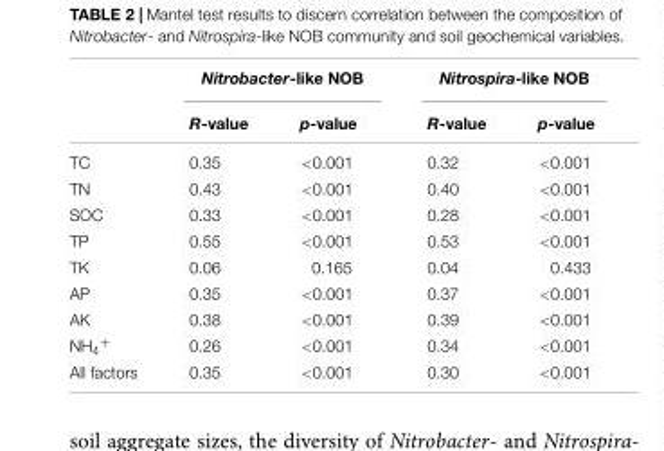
<table><thead><tr><td rowspan="2"></td><td colspan="2">Nitrobacter-like NOB</td><td colspan="2">Nitrospira-like NOB</td></tr><tr><td>R-value</td><td>p-value</td><td>R-value</td><td>p-value</td></tr></thead><tbody><tr><td>TC</td><td>0.35</td><td>&lt;0.001</td><td>0.32</td><td>&lt;0.001</td></tr><tr><td>TN</td><td>0.43</td><td>&lt;0.001</td><td>0.40</td><td>&lt;0.001</td></tr><tr><td>SOC</td><td>0.33</td><td>&lt;0.001</td><td>0.28</td><td>&lt;0.001</td></tr><tr><td>TP</td><td>0.55</td><td>&lt;0.001</td><td>0.53</td><td>&lt;0.001</td></tr><tr><td>TK</td><td>0.06</td><td>0.165</td><td>0.04</td><td>0.433</td></tr><tr><td>AP</td><td>0.35</td><td>&lt;0.001</td><td>0.37</td><td>&lt;0.001</td></tr><tr><td>AK</td><td>0.38</td><td>&lt;0.001</td><td>0.39</td><td>&lt;0.001</td></tr><tr><td>NH<sub>4</sub><sup>+</sup></td><td>0.26</td><td>&lt;0.001</td><td>0.34</td><td>&lt;0.001</td></tr><tr><td>All factors</td><td>0.35</td><td>&lt;0.001</td><td>0.30</td><td>&lt;0.001</td></tr></tbody></table>